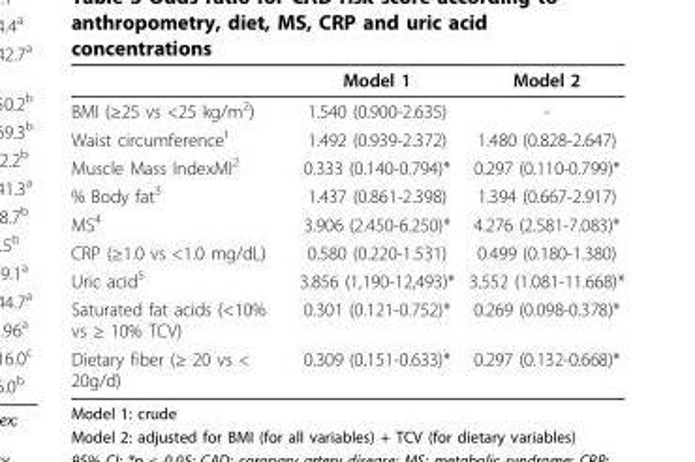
<table><thead><tr><td></td><td>Model 1</td><td>Model 2</td></tr></thead><tbody><tr><td>BMI (≥25 vs &lt;25 kg/m<sup>2</sup>)</td><td>1.540 (0.900-2.635)</td><td>-</td></tr><tr><td>Waist circumference¹</td><td>1.492 (0.939-2.372)</td><td>1.480 (0.828-2.647)</td></tr><tr><td>Muscle Mass IndexMI<sup>2</sup></td><td>0.333 (0.140-0.794)*</td><td>0.297 (0.110-0.799)*</td></tr><tr><td>% Body fat<sup>3</sup></td><td>1.437 (0.861-2.398)</td><td>1.394 (0.667-2.917)</td></tr><tr><td>MS<sup>4</sup></td><td>3.906 (2.450-6.250)*</td><td>4.276 (2.581-7.083)*</td></tr><tr><td>CRP (≥1.0 vs &lt;1.0 mg/dL)</td><td>0.580 (0.220-1.531)</td><td>0.499 (0.180-1.380)</td></tr><tr><td>Uric acid<sup>5</sup></td><td>3.856 (1,190-12,493)*</td><td>3.552 (1.081-11.668)*</td></tr><tr><td>Saturated fat acids (&lt;10% vs ≥ 10% TCV)</td><td>0.301 (0.121-0.752)*</td><td>0.269 (0.098-0.378)*</td></tr><tr><td>Dietary fiber (≥ 20 vs &lt; 20g/d)</td><td>0.309 (0.151-0.633)*</td><td>0.297 (0.132-0.668)*</td></tr></tbody></table>